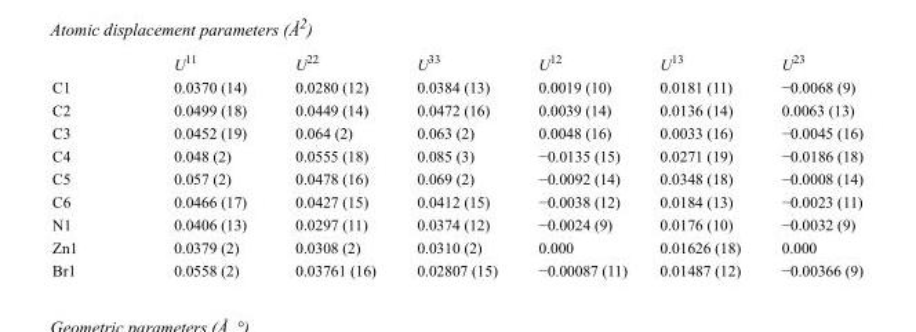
<table><thead><tr><td></td><td>U<sup>11</sup></td><td>U<sup>22</sup></td><td>U<sup>33</sup></td><td>U<sup>12</sup></td><td>U<sup>13</sup></td><td>U<sup>23</sup></td></tr></thead><tbody><tr><td>C1</td><td>0.0370 (14)</td><td>0.0280 (12)</td><td>0.0384 (13)</td><td>0.0019 (10)</td><td>0.0181 (11)</td><td>−0.0068 (9)</td></tr><tr><td>C2</td><td>0.0499 (18)</td><td>0.0449 (14)</td><td>0.0472 (16)</td><td>0.0039 (14)</td><td>0.0136 (14)</td><td>0.0063 (13)</td></tr><tr><td>C3</td><td>0.0452 (19)</td><td>0.064 (2)</td><td>0.063 (2)</td><td>0.0048 (16)</td><td>0.0033 (16)</td><td>−0.0045 (16)</td></tr><tr><td>C4</td><td>0.048 (2)</td><td>0.0555 (18)</td><td>0.085 (3)</td><td>−0.0135 (15)</td><td>0.0271 (19)</td><td>−0.0186 (18)</td></tr><tr><td>C5</td><td>0.057 (2)</td><td>0.0478 (16)</td><td>0.069 (2)</td><td>−0.0092 (14)</td><td>0.0348 (18)</td><td>−0.0008 (14)</td></tr><tr><td>C6</td><td>0.0466 (17)</td><td>0.0427 (15)</td><td>0.0412 (15)</td><td>−0.0038 (12)</td><td>0.0184 (13)</td><td>−0.0023 (11)</td></tr><tr><td>N1</td><td>0.0406 (13)</td><td>0.0297 (11)</td><td>0.0374 (12)</td><td>−0.0024 (9)</td><td>0.0176 (10)</td><td>−0.0032 (9)</td></tr><tr><td>Zn1</td><td>0.0379 (2)</td><td>0.0308 (2)</td><td>0.0310 (2)</td><td>0.000</td><td>0.01626 (18)</td><td>0.000</td></tr><tr><td>Br1</td><td>0.0558 (2)</td><td>0.03761 (16)</td><td>0.02807 (15)</td><td>−0.00087 (11)</td><td>0.01487 (12)</td><td>−0.00366 (9)</td></tr></tbody></table>